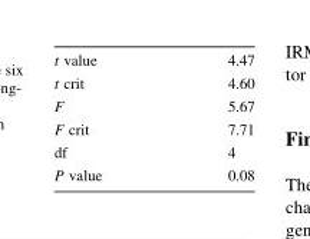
<table><tbody><tr><td>t value</td><td>4.47</td></tr><tr><td>t crit</td><td>4.60</td></tr><tr><td>F</td><td>5.67</td></tr><tr><td>F crit</td><td>7.71</td></tr><tr><td>df</td><td>4</td></tr><tr><td>P value</td><td>0.08</td></tr></tbody></table>